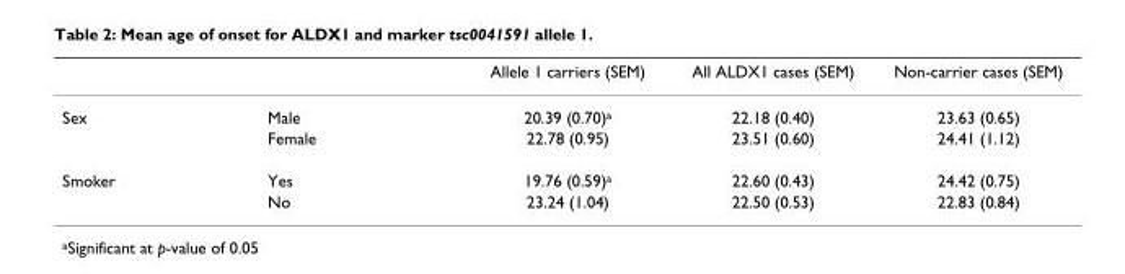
<table><thead><tr><td></td><td></td><td>Allele 1 carriers (SEM)</td><td>All ALDX1 cases (SEM)</td><td>Non-carrier cases (SEM)</td></tr></thead><tbody><tr><td rowspan="2">Sex</td><td>Male</td><td>20.39 (0.70)a</td><td>22.18 (0.40)</td><td>23.63 (0.65)</td></tr><tr><td>Female</td><td>22.78 (0.95)</td><td>23.51 (0.60)</td><td>24.41 (1.12)</td></tr><tr><td rowspan="2">Smoker</td><td>Yes</td><td>19.76 (0.59)a</td><td>22.60 (0.43)</td><td>24.42 (0.75)</td></tr><tr><td>No</td><td>23.24 (1.04)</td><td>22.50 (0.53)</td><td>22.83 (0.84)</td></tr></tbody></table>